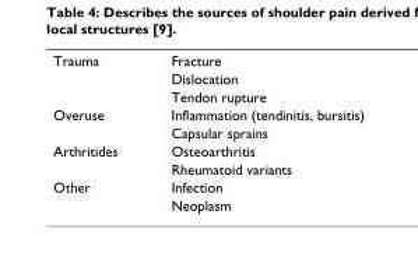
<table><tbody><tr><td rowspan="3">Trauma</td><td>Fracture</td></tr><tr><td>Dislocation</td></tr><tr><td>Tendon rupture</td></tr><tr><td rowspan="2">Overuse</td><td>Inflammation (tendinitis, bursitis)</td></tr><tr><td>Capsular sprains</td></tr><tr><td rowspan="2">Arthritides</td><td>Osteoarthritis</td></tr><tr><td>Rheumatoid variants</td></tr><tr><td rowspan="2">Other</td><td>Infection</td></tr><tr><td>Neoplasm</td></tr></tbody></table>